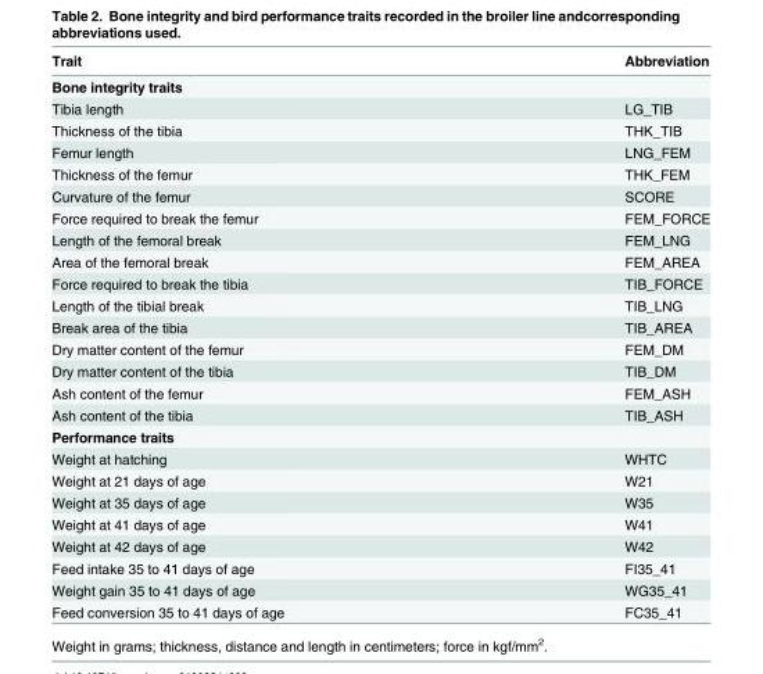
<table><thead><tr><td>Trait</td><td>Abbreviation</td></tr></thead><tbody><tr><td colspan="2">Bone integrity traits</td></tr><tr><td>Tibia length</td><td>LG_TIB</td></tr><tr><td>Thickness of the tibia</td><td>THK_TIB</td></tr><tr><td>Femur length</td><td>LNG_FEM</td></tr><tr><td>Thickness of the femur</td><td>THK_FEM</td></tr><tr><td>Curvature of the femur</td><td>SCORE</td></tr><tr><td>Force required to break the femur</td><td>FEM_FORCE</td></tr><tr><td>Length of the femoral break</td><td>FEM_LNG</td></tr><tr><td>Area of the femoral break</td><td>FEM_AREA</td></tr><tr><td>Force required to break the tibia</td><td>TIB_FORCE</td></tr><tr><td>Length of the tibial break</td><td>TIB_LNG</td></tr><tr><td>Break area of the tibia</td><td>TIB_AREA</td></tr><tr><td>Dry matter content of the femur</td><td>FEM_DM</td></tr><tr><td>Dry matter content of the tibia</td><td>TIB_DM</td></tr><tr><td>Ash content of the femur</td><td>FEM_ASH</td></tr><tr><td>Ash content of the tibia</td><td>TIB_ASH</td></tr><tr><td colspan="2">Performance traits</td></tr><tr><td>Weight at hatching</td><td>WHTC</td></tr><tr><td>Weight at 21 days of age</td><td>W21</td></tr><tr><td>Weight at 35 days of age</td><td>W35</td></tr><tr><td>Weight at 41 days of age</td><td>W41</td></tr><tr><td>Weight at 42 days of age</td><td>W42</td></tr><tr><td>Feed intake 35 to 41 days of age</td><td>FI35_41</td></tr><tr><td>Weight gain 35 to 41 days of age</td><td>WG35_41</td></tr><tr><td>Feed conversion 35 to 41 days of age</td><td>FC35_41</td></tr></tbody></table>